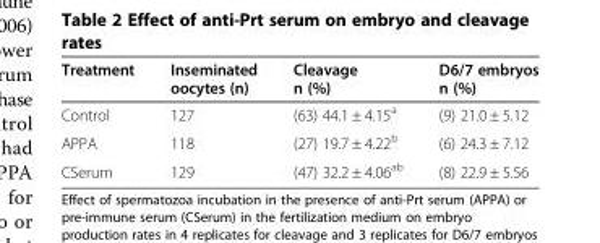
<table><thead><tr><td>Treatment</td><td>Inseminated oocytes (n)</td><td>Cleavage n (%)</td><td>D6/7 embryos n (%)</td></tr></thead><tbody><tr><td>Control</td><td>127</td><td>(63) 44.1 ± 4.15<sup>a</sup></td><td>(9) 21.0 ± 5.12</td></tr><tr><td>APPA</td><td>118</td><td>(27) 19.7 ± 4.22<sup>b</sup></td><td>(6) 24.3 ± 7.12</td></tr><tr><td>CSerum</td><td>129</td><td>(47) 32.2 ± 4.06<sup>ab</sup></td><td>(8) 22.9 ± 5.56</td></tr></tbody></table>